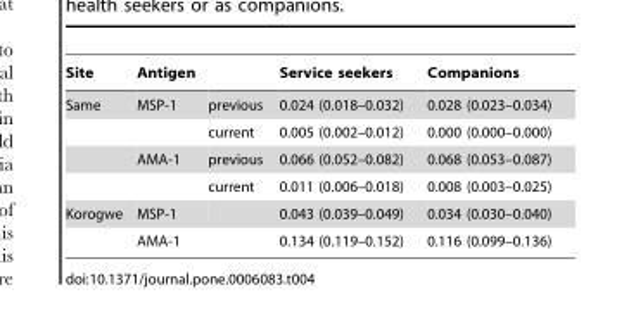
<table><thead><tr><td>Site</td><td>Antigen</td><td></td><td>Service seekers</td><td>Companions</td></tr></thead><tbody><tr><td rowspan="4">Same</td><td>MSP-1</td><td>previous</td><td>0.024 (0.018–0.032)</td><td>0.028 (0.023–0.034)</td></tr><tr><td></td><td>current</td><td>0.005 (0.002–0.012)</td><td>0.000 (0.000–0.000)</td></tr><tr><td>AMA-1</td><td>previous</td><td>0.066 (0.052–0.082)</td><td>0.068 (0.053–0.087)</td></tr><tr><td></td><td>current</td><td>0.011 (0.006–0.018)</td><td>0.008 (0.003–0.025)</td></tr><tr><td rowspan="2">Korogwe</td><td>MSP-1</td><td></td><td>0.043 (0.039–0.049)</td><td>0.034 (0.030–0.040)</td></tr><tr><td>AMA-1</td><td></td><td>0.134 (0.119–0.152)</td><td>0.116 (0.099–0.136)</td></tr></tbody></table>